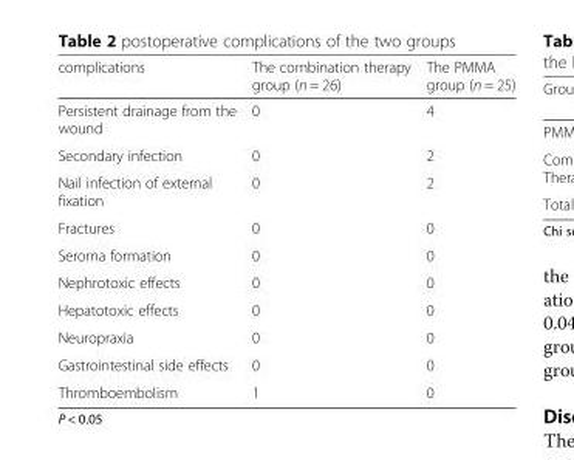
<table><thead><tr><td>complications</td><td>The combination therapy group (n = 26)</td><td>The PMMA group (n = 25)</td></tr></thead><tbody><tr><td>Persistent drainage from the wound</td><td>0</td><td>4</td></tr><tr><td>Secondary infection</td><td>0</td><td>2</td></tr><tr><td>Nail infection of external fixation</td><td>0</td><td>2</td></tr><tr><td>Fractures</td><td>0</td><td>0</td></tr><tr><td>Seroma formation</td><td>0</td><td>0</td></tr><tr><td>Nephrotoxic effects</td><td>0</td><td>0</td></tr><tr><td>Hepatotoxic effects</td><td>0</td><td>0</td></tr><tr><td>Neuropraxia</td><td>0</td><td>0</td></tr><tr><td>Gastrointestinal side effects</td><td>0</td><td>0</td></tr><tr><td>Thromboembolism</td><td>1</td><td>0</td></tr></tbody></table>